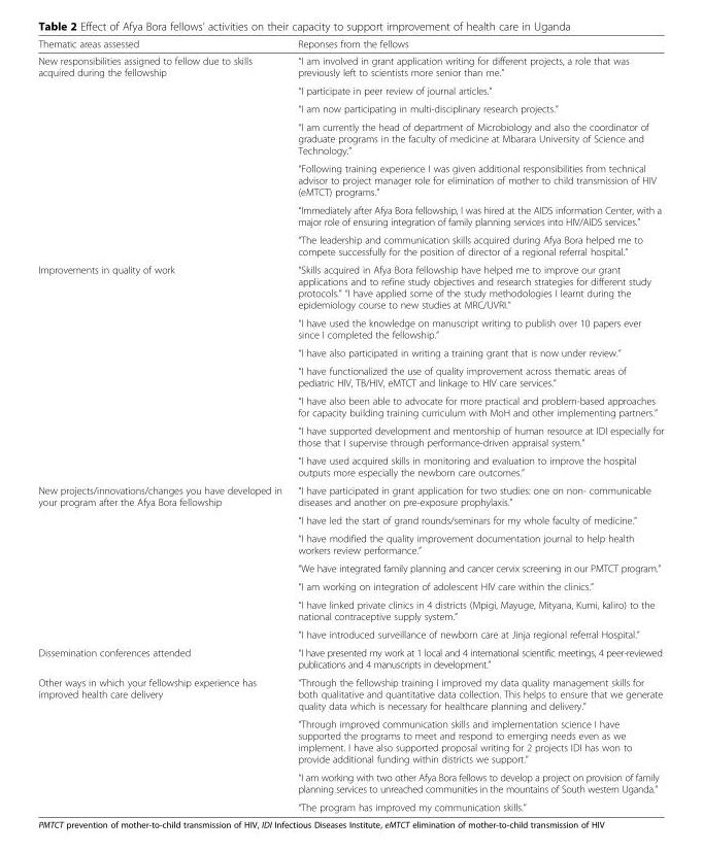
<table><thead><tr><td>Thematic areas assessed</td><td>Reponses from the fellows</td></tr></thead><tbody><tr><td rowspan="7">New responsibilities assigned to fellow due to skills acquired during the fellowship</td><td>“I am involved in grant application writing for different projects, a role that was previously left to scientists more senior than me.”</td></tr><tr><td>“I participate in peer review of journal articles.”</td></tr><tr><td>“I am now participating in multi-disciplinary research projects.”</td></tr><tr><td>“I am currently the head of department of Microbiology and also the coordinator of graduate programs in the faculty of medicine at Mbarara University of Science and Technology.”</td></tr><tr><td>“Following training experience I was given additional responsibilities from technical advisor to project manager role for elimination of mother to child transmission of HIV (eMTCT) programs.”</td></tr><tr><td>“Immediately after Afya Bora fellowship, I was hired at the AIDS information Center, with a major role of ensuring integration of family planning services into HIV/AIDS services.”</td></tr><tr><td>“The leadership and communication skills acquired during Afya Bora helped me to compete successfully for the position of director of a regional referral hospital.”</td></tr><tr><td rowspan="7">Improvements in quality of work</td><td>“Skills acquired in Afya Bora fellowship have helped me to improve our grant applications and to refine study objectives and research strategies for different study protocols.” “I have applied some of the study methodologies I learnt during the epidemiology course to new studies at MRC/UVRI.”</td></tr><tr><td>“I have used the knowledge on manuscript writing to publish over 10 papers ever since I completed the fellowship.”</td></tr><tr><td>“I have also participated in writing a training grant that is now under review.”</td></tr><tr><td>“I have functionalized the use of quality improvement across thematic areas of pediatric HIV, TB/HIV, eMTCT and linkage to HIV care services.”</td></tr><tr><td>“I have also been able to advocate for more practical and problem-based approaches for capacity building training curriculum with MoH and other implementing partners.”</td></tr><tr><td>“I have supported development and mentorship of human resource at IDI especially for those that I supervise through performance-driven appraisal system.”</td></tr><tr><td>“I have used acquired skills in monitoring and evaluation to improve the hospital outputs more especially the newborn care outcomes.”</td></tr><tr><td rowspan="7">New projects/innovations/changes you have developed in your program after the Afya Bora fellowship</td><td>“I have participated in grant application for two studies: one on non- communicable diseases and another on pre-exposure prophylaxis.”</td></tr><tr><td>“I have led the start of grand rounds/seminars for my whole faculty of medicine.”</td></tr><tr><td>“I have modified the quality improvement documentation journal to help health workers review performance.”</td></tr><tr><td>“We have integrated family planning and cancer cervix screening in our PMTCT program.”</td></tr><tr><td>“I am working on integration of adolescent HIV care within the clinics.”</td></tr><tr><td>“I have linked private clinics in 4 districts (Mpigi, Mayuge, Mityana, Kumi, kaliro) to the national contraceptive supply system.”</td></tr><tr><td>“I have introduced surveillance of newborn care at Jinja regional referral Hospital.”</td></tr><tr><td>Dissemination conferences attended</td><td>“I have presented my work at 1 local and 4 international scientific meetings, 4 peer-reviewed publications and 4 manuscripts in development.”</td></tr><tr><td rowspan="4">Other ways in which your fellowship experience has improved health care delivery</td><td>“Through the fellowship training I improved my data quality management skills for both qualitative and quantitative data collection. This helps to ensure that we generate quality data which is necessary for healthcare planning and delivery.”</td></tr><tr><td>“Through improved communication skills and implementation science I have supported the programs to meet and respond to emerging needs even as we implement. I have also supported proposal writing for 2 projects IDI has won to provide additional funding within districts we support.”</td></tr><tr><td>“I am working with two other Afya Bora fellows to develop a project on provision of family planning services to unreached communities in the mountains of South western Uganda.”</td></tr><tr><td>“The program has improved my communication skills.”</td></tr></tbody></table>